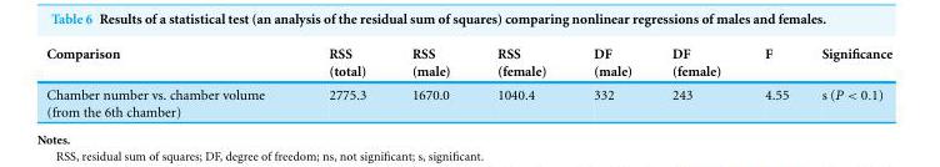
<table><thead><tr><td>Comparison</td><td>RSS (total)</td><td>RSS (male)</td><td>RSS (female)</td><td>DF (male)</td><td>DF (female)</td><td>F</td><td>Significance</td></tr></thead><tbody><tr><td>Chamber number vs. chamber volume (from the 6th chamber)</td><td>2775.3</td><td>1670.0</td><td>1040.4</td><td>332</td><td>243</td><td>4.55</td><td>s (P &lt; 0.1)</td></tr></tbody></table>